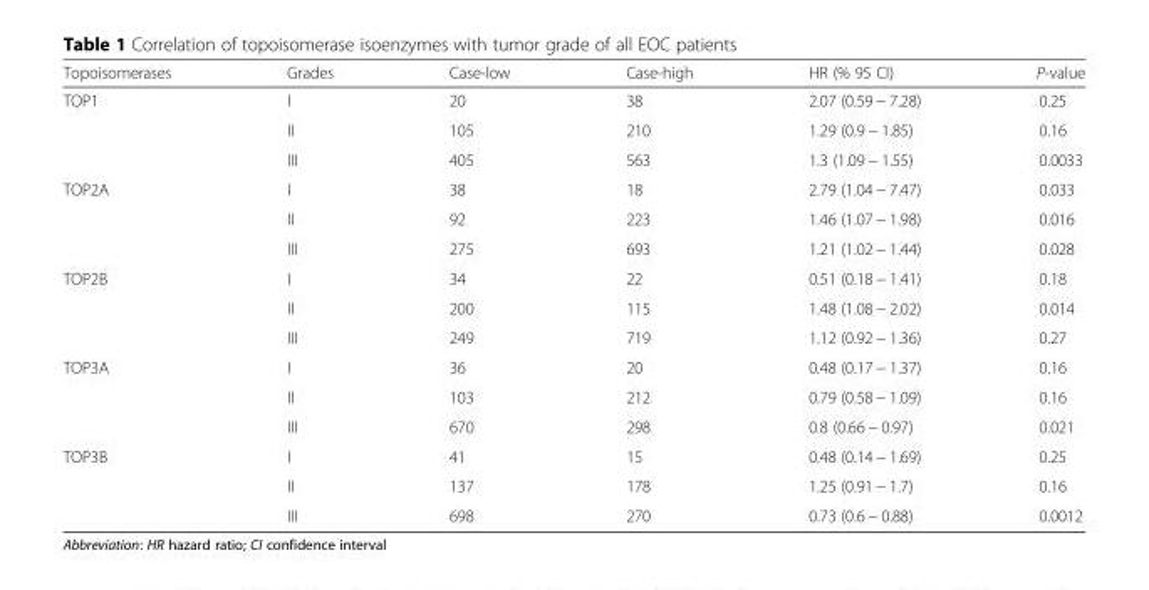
<table><thead><tr><td>Topoisomerases</td><td>Grades</td><td>Case-low</td><td>Case-high</td><td>HR (% 95 CI)</td><td>P-value</td></tr></thead><tbody><tr><td rowspan="3">TOP1</td><td>I</td><td>20</td><td>38</td><td>2.07 (0.59 − 7.28)</td><td>0.25</td></tr><tr><td>II</td><td>105</td><td>210</td><td>1.29 (0.9 − 1.85)</td><td>0.16</td></tr><tr><td>III</td><td>405</td><td>563</td><td>1.3 (1.09 − 1.55)</td><td>0.0033</td></tr><tr><td rowspan="3">TOP2A</td><td>I</td><td>38</td><td>18</td><td>2.79 (1.04 − 7.47)</td><td>0.033</td></tr><tr><td>II</td><td>92</td><td>223</td><td>1.46 (1.07 − 1.98)</td><td>0.016</td></tr><tr><td>III</td><td>275</td><td>693</td><td>1.21 (1.02 − 1.44)</td><td>0.028</td></tr><tr><td rowspan="3">TOP2B</td><td>I</td><td>34</td><td>22</td><td>0.51 (0.18 − 1.41)</td><td>0.18</td></tr><tr><td>II</td><td>200</td><td>115</td><td>1.48 (1.08 − 2.02)</td><td>0.014</td></tr><tr><td>III</td><td>249</td><td>719</td><td>1.12 (0.92 − 1.36)</td><td>0.27</td></tr><tr><td rowspan="3">TOP3A</td><td>I</td><td>36</td><td>20</td><td>0.48 (0.17 − 1.37)</td><td>0.16</td></tr><tr><td>II</td><td>103</td><td>212</td><td>0.79 (0.58 − 1.09)</td><td>0.16</td></tr><tr><td>III</td><td>670</td><td>298</td><td>0.8 (0.66 − 0.97)</td><td>0.021</td></tr><tr><td rowspan="3">TOP3B</td><td>I</td><td>41</td><td>15</td><td>0.48 (0.14 − 1.69)</td><td>0.25</td></tr><tr><td>II</td><td>137</td><td>178</td><td>1.25 (0.91 − 1.7)</td><td>0.16</td></tr><tr><td>III</td><td>698</td><td>270</td><td>0.73 (0.6 − 0.88)</td><td>0.0012</td></tr></tbody></table>